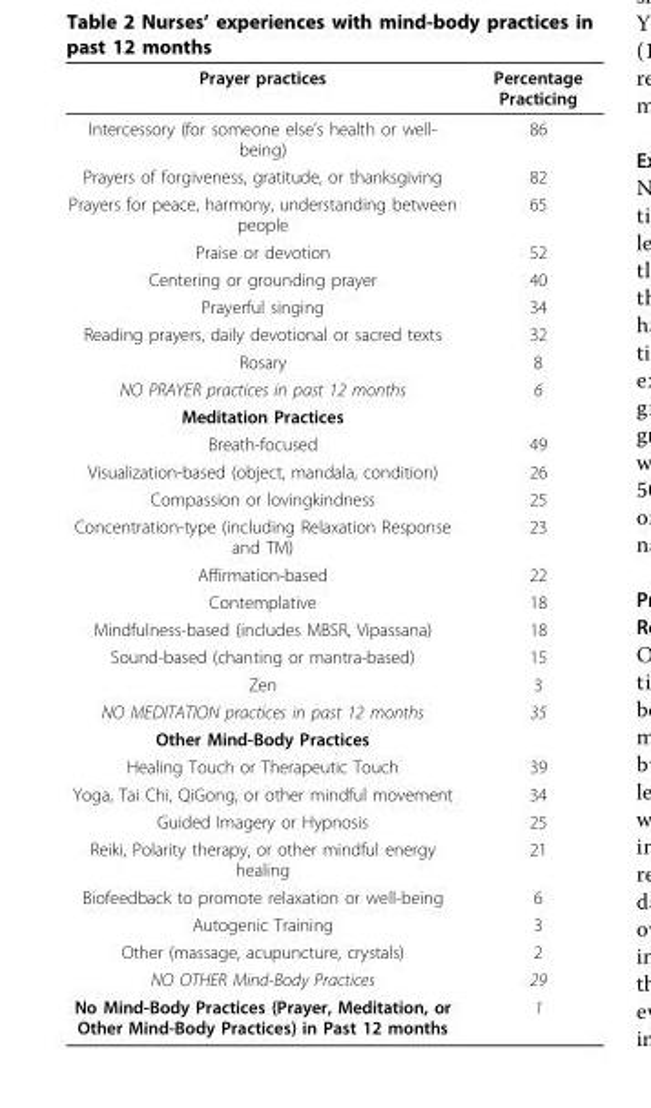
<table><thead><tr><td>Prayer practices</td><td>Percentage Practicing</td></tr></thead><tbody><tr><td>Intercessory (for someone else’s health or well- being)</td><td>86</td></tr><tr><td>Prayers of forgiveness, gratitude, or thanksgiving</td><td>82</td></tr><tr><td>Prayers for peace, harmony, understanding between people</td><td>65</td></tr><tr><td>Praise or devotion</td><td>52</td></tr><tr><td>Centering or grounding prayer</td><td>40</td></tr><tr><td>Prayerful singing</td><td>34</td></tr><tr><td>Reading prayers, daily devotional or sacred texts</td><td>32</td></tr><tr><td>Rosary</td><td>8</td></tr><tr><td>NO PRAYER practices in past 12 months</td><td>6</td></tr><tr><td colspan="2">Meditation Practices</td></tr><tr><td>Breath-focused</td><td>49</td></tr><tr><td>Visualization-based (object, mandala, condition)</td><td>26</td></tr><tr><td>Compassion or lovingkindness</td><td>25</td></tr><tr><td>Concentration-type (including Relaxation Response and TM)</td><td>23</td></tr><tr><td>Affirmation-based</td><td>22</td></tr><tr><td>Contemplative</td><td>18</td></tr><tr><td>Mindfulness-based (includes MBSR, Vipassana)</td><td>18</td></tr><tr><td>Sound-based (chanting or mantra-based)</td><td>15</td></tr><tr><td>Zen</td><td>3</td></tr><tr><td>NO MEDITATION practices in past 12 months</td><td>35</td></tr><tr><td colspan="2">Other Mind-Body Practices</td></tr><tr><td>Healing Touch or Therapeutic Touch</td><td>39</td></tr><tr><td>Yoga, Tai Chi, QiGong, or other mindful movement</td><td>34</td></tr><tr><td>Guided Imagery or Hypnosis</td><td>25</td></tr><tr><td>Reiki, Polarity therapy, or other mindful energy healing</td><td>21</td></tr><tr><td>Biofeedback to promote relaxation or well-being</td><td>6</td></tr><tr><td>Autogenic Training</td><td>3</td></tr><tr><td>Other (massage, acupuncture, crystals)</td><td>2</td></tr><tr><td>NO OTHER Mind-Body Practices</td><td>29</td></tr><tr><td>No Mind-Body Practices (Prayer, Meditation, or Other Mind-Body Practices) in Past 12 months</td><td>1</td></tr></tbody></table>